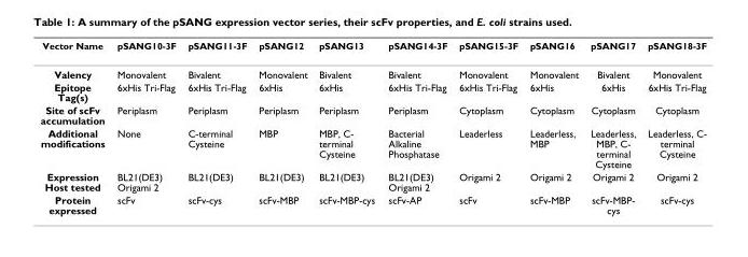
<table><thead><tr><td>Vector Name</td><td>pSANG10-3F</td><td>pSANG11-3F</td><td>pSANG12</td><td>pSANG13</td><td>pSANG14-3F</td><td>pSANG15-3F</td><td>pSANG16</td><td>pSANG17</td><td>pSANG18-3F</td></tr></thead><tbody><tr><td>Valency</td><td>Monovalent</td><td>Bivalent</td><td>Monovalent</td><td>Bivalent</td><td>Bivalent</td><td>Monovalent</td><td>Monovalent</td><td>Bivalent</td><td>Monovalent</td></tr><tr><td>Epitope Tag(s)</td><td>6xHis Tri-Flag</td><td>6xHis Tri-Flag</td><td>6xHis</td><td>6xHis</td><td>6xHis Tri-Flag</td><td>6xHis Tri-Flag</td><td>6xHis</td><td>6xHis</td><td>6xHis Tri-Flag</td></tr><tr><td>Site of scFv accumulation</td><td>Periplasm</td><td>Periplasm</td><td>Periplasm</td><td>Periplasm</td><td>Periplasm</td><td>Cytoplasm</td><td>Cytoplasm</td><td>Cytoplasm</td><td>Cytoplasm</td></tr><tr><td>Additional modifications</td><td>None</td><td>C-terminal Cysteine</td><td>MBP</td><td>MBP, C- terminal Cysteine</td><td>Bacterial Alkaline Phosphatase</td><td>Leaderless</td><td>Leaderless, MBP</td><td>Leaderless, MBP, C- terminal Cysteine</td><td>Leaderless, C- terminal Cysteine</td></tr><tr><td>Expression Host tested</td><td>BL21(DE3) Origami 2</td><td>BL21(DE3)</td><td>BL21(DE3)</td><td>BL21(DE3)</td><td>BL21(DE3) Origami 2</td><td>Origami 2</td><td>Origami 2</td><td>Origami 2</td><td>Origami 2</td></tr><tr><td>Protein expressed</td><td>scFv</td><td>scFv-cys</td><td>scFv-MBP</td><td>scFv-MBP-cys</td><td>scFv-AP</td><td>scFv</td><td>scFv-MBP</td><td>scFv-MBP- cys</td><td>scFv-cys</td></tr></tbody></table>